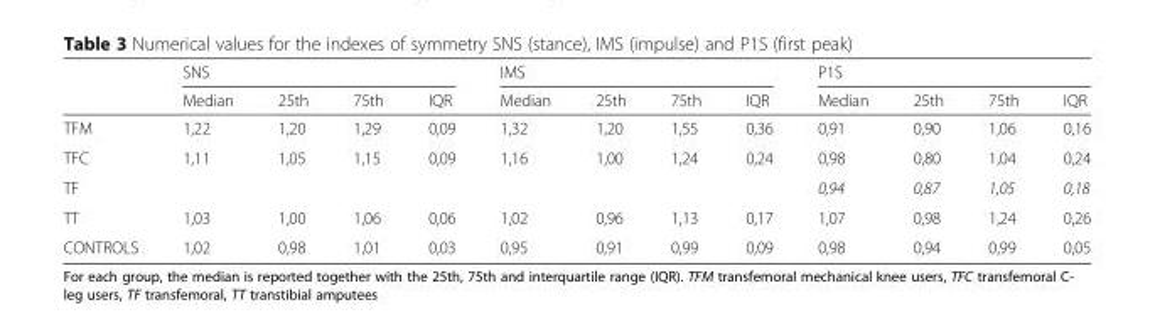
<table><thead><tr><td rowspan="2"></td><td colspan="4">SNS</td><td colspan="4">IMS</td><td colspan="4">P1S</td></tr><tr><td>Median</td><td>25th</td><td>75th</td><td>IQR</td><td>Median</td><td>25th</td><td>75th</td><td>IQR</td><td>Median</td><td>25th</td><td>75th</td><td>IQR</td></tr></thead><tbody><tr><td>TFM</td><td>1,22</td><td>1,20</td><td>1,29</td><td>0,09</td><td>1,32</td><td>1,20</td><td>1,55</td><td>0,36</td><td>0,91</td><td>0,90</td><td>1,06</td><td>0,16</td></tr><tr><td>TFC</td><td>1,11</td><td>1,05</td><td>1,15</td><td>0,09</td><td>1,16</td><td>1,00</td><td>1,24</td><td>0,24</td><td>0,98</td><td>0,80</td><td>1,04</td><td>0,24</td></tr><tr><td>TF</td><td colspan="8"></td><td>0,94</td><td>0,87</td><td>1,05</td><td>0,18</td></tr><tr><td>TT</td><td>1,03</td><td>1,00</td><td>1,06</td><td>0,06</td><td>1,02</td><td>0,96</td><td>1,13</td><td>0,17</td><td>1,07</td><td>0,98</td><td>1,24</td><td>0,26</td></tr><tr><td>CONTROLS</td><td>1,02</td><td>0,98</td><td>1,01</td><td>0,03</td><td>0,95</td><td>0,91</td><td>0,99</td><td>0,09</td><td>0,98</td><td>0,94</td><td>0,99</td><td>0,05</td></tr></tbody></table>